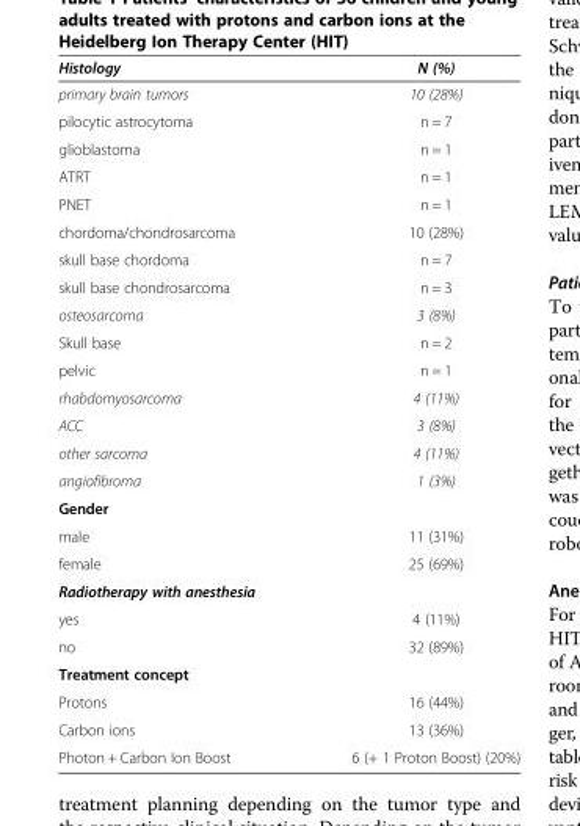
<table><thead><tr><td>Histology</td><td>N (%)</td></tr></thead><tbody><tr><td>primary brain tumors</td><td>10 (28%)</td></tr><tr><td>pilocytic astrocytoma</td><td>n = 7</td></tr><tr><td>glioblastoma</td><td>n = 1</td></tr><tr><td>ATRT</td><td>n = 1</td></tr><tr><td>PNET</td><td>n = 1</td></tr><tr><td>chordoma/chondrosarcoma</td><td>10 (28%)</td></tr><tr><td>skull base chordoma</td><td>n = 7</td></tr><tr><td>skull base chondrosarcoma</td><td>n = 3</td></tr><tr><td>osteosarcoma</td><td>3 (8%)</td></tr><tr><td>Skull base</td><td>n = 2</td></tr><tr><td>pelvic</td><td>n = 1</td></tr><tr><td>rhabdomyosarcoma</td><td>4 (11%)</td></tr><tr><td>ACC</td><td>3 (8%)</td></tr><tr><td>other sarcoma</td><td>4 (11%)</td></tr><tr><td>angiofibroma</td><td>1 (3%)</td></tr><tr><td colspan="2">Gender</td></tr><tr><td>male</td><td>11 (31%)</td></tr><tr><td>female</td><td>25 (69%)</td></tr><tr><td colspan="2">Radiotherapy with anesthesia</td></tr><tr><td>yes</td><td>4 (11%)</td></tr><tr><td>no</td><td>32 (89%)</td></tr><tr><td colspan="2">Treatment concept</td></tr><tr><td>Protons</td><td>16 (44%)</td></tr><tr><td>Carbon ions</td><td>13 (36%)</td></tr><tr><td>Photon + Carbon Ion Boost</td><td>6 (+ 1 Proton Boost) (20%)</td></tr></tbody></table>